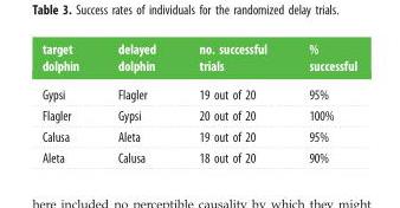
<table><thead><tr><td>target dolphin</td><td>delayed dolphin</td><td>no. successful trials</td><td>% successful</td></tr></thead><tbody><tr><td>Gypsi</td><td>Flagler</td><td>19 out of 20</td><td>95%</td></tr><tr><td>Flagler</td><td>Gypsi</td><td>20 out of 20</td><td>100%</td></tr><tr><td>Calusa</td><td>Aleta</td><td>19 out of 20</td><td>95%</td></tr><tr><td>Aleta</td><td>Calusa</td><td>18 out of 20</td><td>90%</td></tr></tbody></table>